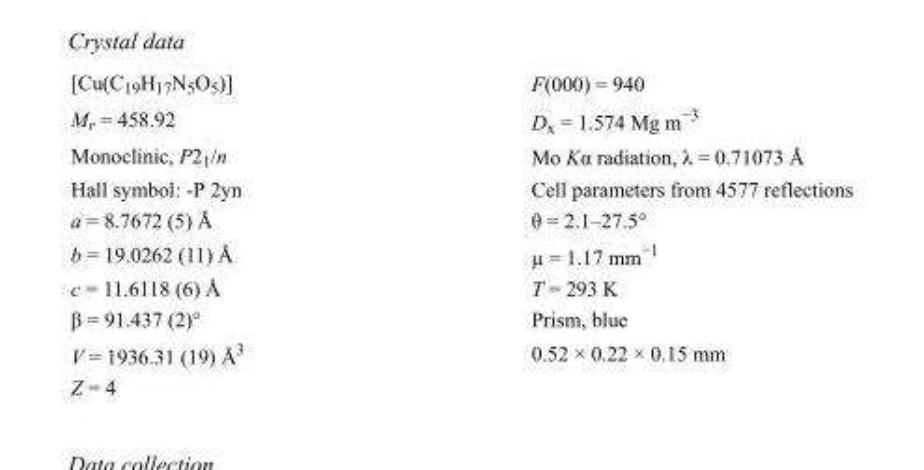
<table><tbody><tr><td>[Cu(C<sub>19</sub>H<sub>17</sub>N<sub>5</sub>O<sub>5</sub>)]</td><td>F(000) = 940</td></tr><tr><td>M<sub>r</sub> = 458.92</td><td>D<sub>x</sub> = 1.574 Mg m<sup>−3</sup></td></tr><tr><td>Monoclinic, P2<sub>1</sub>/n</td><td>Mo Kα radiation, λ = 0.71073 Å</td></tr><tr><td>Hall symbol: -P 2yn</td><td>Cell parameters from 4577 reflections</td></tr><tr><td>a = 8.7672 (5) Å</td><td>θ = 2.1–27.5°</td></tr><tr><td>b = 19.0262 (11) Å</td><td>µ = 1.17 mm<sup>−1</sup></td></tr><tr><td>c = 11.6118 (6) Å</td><td>T = 293 K</td></tr><tr><td>β = 91.437 (2)°</td><td>Prism, blue</td></tr><tr><td>V = 1936.31 (19) Å<sup>3</sup></td><td>0.52 × 0.22 × 0.15 mm</td></tr><tr><td>Z = 4</td><td></td></tr></tbody></table>